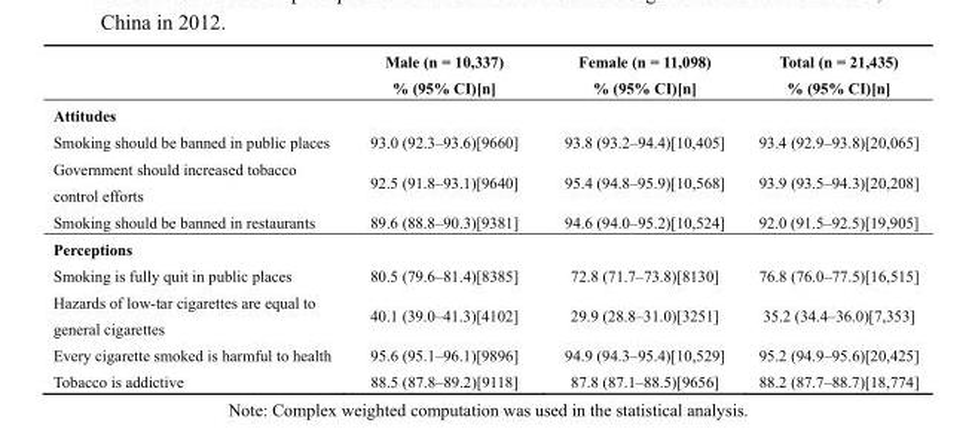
<table><thead><tr><td></td><td>Male (n = 10,337) % (95% CI)[n]</td><td>Female (n = 11,098) % (95% CI)[n]</td><td>Total (n = 21,435) % (95% CI)[n]</td></tr></thead><tbody><tr><td colspan="4">Attitudes</td></tr><tr><td>Smoking should be banned in public places</td><td>93.0 (92.3–93.6)[9660]</td><td>93.8 (93.2–94.4)[10,405]</td><td>93.4 (92.9–93.8)[20,065]</td></tr><tr><td>Government should increased tobacco control efforts</td><td>92.5 (91.8–93.1)[9640]</td><td>95.4 (94.8–95.9)[10,568]</td><td>93.9 (93.5–94.3)[20,208]</td></tr><tr><td>Smoking should be banned in restaurants</td><td>89.6 (88.8–90.3)[9381]</td><td>94.6 (94.0–95.2)[10,524]</td><td>92.0 (91.5–92.5)[19,905]</td></tr><tr><td colspan="4">Perceptions</td></tr><tr><td>Smoking is fully quit in public places</td><td>80.5 (79.6–81.4)[8385]</td><td>72.8 (71.7–73.8)[8130]</td><td>76.8 (76.0–77.5)[16,515]</td></tr><tr><td>Hazards of low-tar cigarettes are equal to general cigarettes</td><td>40.1 (39.0–41.3)[4102]</td><td>29.9 (28.8–31.0)[3251]</td><td>35.2 (34.4–36.0)[7,353]</td></tr><tr><td>Every cigarette smoked is harmful to health</td><td>95.6 (95.1–96.1)[9896]</td><td>94.9 (94.3–95.4)[10,529]</td><td>95.2 (94.9–95.6)[20,425]</td></tr><tr><td>Tobacco is addictive</td><td>88.5 (87.8–89.2)[9118]</td><td>87.8 (87.1–88.5)[9656]</td><td>88.2 (87.7–88.7)[18,774]</td></tr></tbody></table>